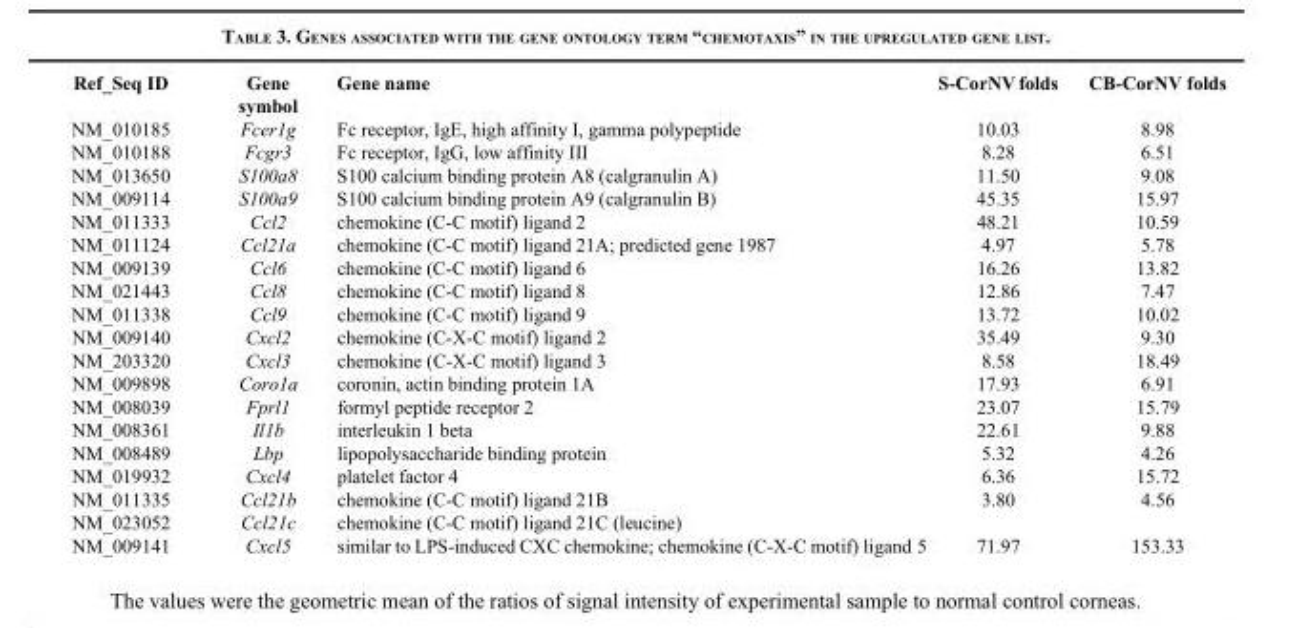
<table><thead><tr><td>Ref_Seq ID</td><td>Gene symbol</td><td>Gene name</td><td>S-CorNV folds</td><td>CB-CorNV folds</td></tr></thead><tbody><tr><td>NM_010185</td><td>Fcer1g</td><td>Fc receptor, IgE, high affinity I, gamma polypeptide</td><td>10.03</td><td>8.98</td></tr><tr><td>NM_010188</td><td>Fcgr3</td><td>Fc receptor, IgG, low affinity III</td><td>8.28</td><td>6.51</td></tr><tr><td>NM_013650</td><td>S100a8</td><td>S100 calcium binding protein A8 (calgranulin A)</td><td>11.50</td><td>9.08</td></tr><tr><td>NM_009114</td><td>S100a9</td><td>S100 calcium binding protein A9 (calgranulin B)</td><td>45.35</td><td>15.97</td></tr><tr><td>NM_011333</td><td>Ccl2</td><td>chemokine (C-C motif) ligand 2</td><td>48.21</td><td>10.59</td></tr><tr><td>NM_011124</td><td>Ccl21a</td><td>chemokine (C-C motif) ligand 21A; predicted gene 1987</td><td>4.97</td><td>5.78</td></tr><tr><td>NM_009139</td><td>Ccl6</td><td>chemokine (C-C motif) ligand 6</td><td>16.26</td><td>13.82</td></tr><tr><td>NM_021443</td><td>Ccl8</td><td>chemokine (C-C motif) ligand 8</td><td>12.86</td><td>7.47</td></tr><tr><td>NM_011338</td><td>Ccl9</td><td>chemokine (C-C motif) ligand 9</td><td>13.72</td><td>10.02</td></tr><tr><td>NM_009140</td><td>Cxcl2</td><td>chemokine (C-X-C motif) ligand 2</td><td>35.49</td><td>9.30</td></tr><tr><td>NM_203320</td><td>Cxcl3</td><td>chemokine (C-X-C motif) ligand 3</td><td>8.58</td><td>18.49</td></tr><tr><td>NM_009898</td><td>Coro1a</td><td>coronin, actin binding protein 1A</td><td>17.93</td><td>6.91</td></tr><tr><td>NM_008039</td><td>Fprl1</td><td>formyl peptide receptor 2</td><td>23.07</td><td>15.79</td></tr><tr><td>NM_008361</td><td>Il1b</td><td>interleukin 1 beta</td><td>22.61</td><td>9.88</td></tr><tr><td>NM_008489</td><td>Lbp</td><td>lipopolysaccharide binding protein</td><td>5.32</td><td>4.26</td></tr><tr><td>NM_019932</td><td>Cxcl4</td><td>platelet factor 4</td><td>6.36</td><td>15.72</td></tr><tr><td>NM_011335</td><td>Ccl21b</td><td>chemokine (C-C motif) ligand 21B</td><td>3.80</td><td>4.56</td></tr><tr><td>NM_023052</td><td>Ccl21c</td><td>chemokine (C-C motif) ligand 21C (leucine)</td><td></td><td></td></tr><tr><td>NM_009141</td><td>Cxcl5</td><td>similar to LPS-induced CXC chemokine; chemokine (C-X-C motif) ligand 5</td><td>71.97</td><td>153.33</td></tr></tbody></table>